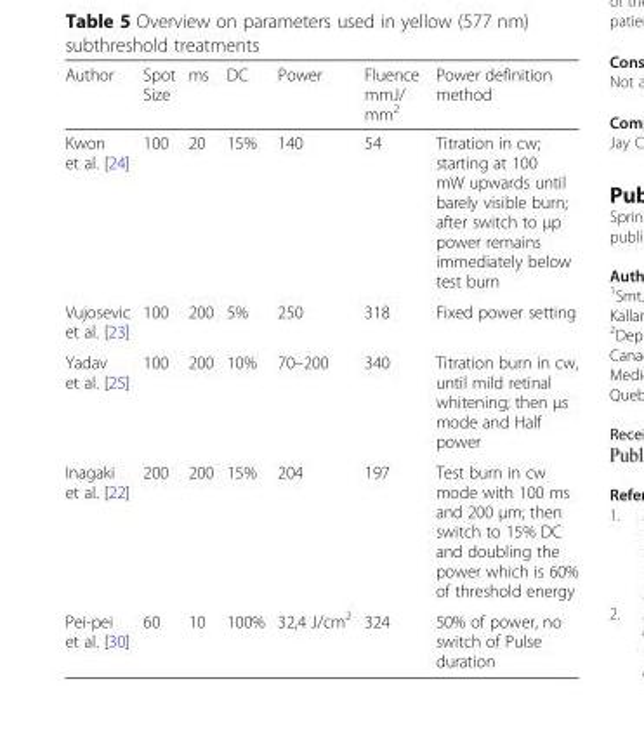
<table><thead><tr><td>Author</td><td>Spot Size</td><td>ms</td><td>DC</td><td>Power</td><td>Fluence mmJ/ mm<sup>2</sup></td><td>Power definition method</td></tr></thead><tbody><tr><td>Kwon et al. [24]</td><td>100</td><td>20</td><td>15%</td><td>140</td><td>54</td><td>Titration in cw; starting at 100 mW upwards until barely visible burn; after switch to μp power remains immediately below test burn</td></tr><tr><td>Vujosevic et al. [23]</td><td>100</td><td>200</td><td>5%</td><td>250</td><td>318</td><td>Fixed power setting</td></tr><tr><td>Yadav et al. [25]</td><td>100</td><td>200</td><td>10%</td><td>70–200</td><td>340</td><td>Titration burn in cw, until mild retinal whitening; then μs mode and Half power</td></tr><tr><td>Inagaki et al. [22]</td><td>200</td><td>200</td><td>15%</td><td>204</td><td>197</td><td>Test burn in cw mode with 100 ms and 200 μm; then switch to 15% DC and doubling the power which is 60% of threshold energy</td></tr><tr><td>Pei-pei et al. [30]</td><td>60</td><td>10</td><td>100%</td><td>32,4 J/cm<sup>2</sup></td><td>324</td><td>50% of power, no switch of Pulse duration</td></tr></tbody></table>